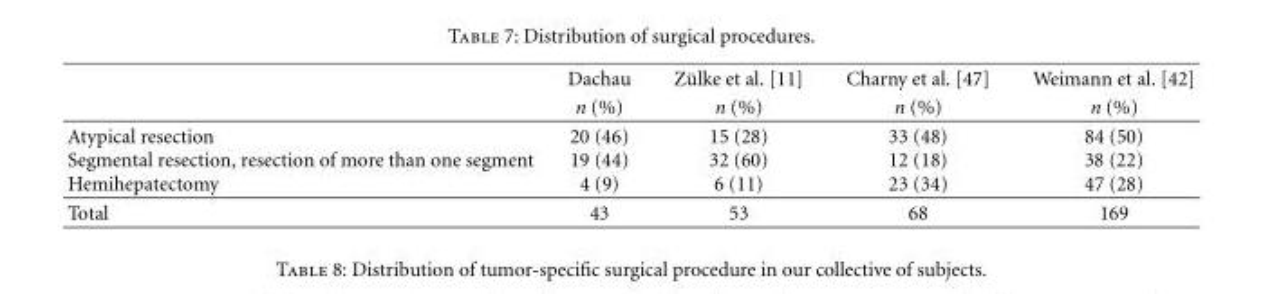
<table><thead><tr><td rowspan="2"></td><td rowspan="2">Dachau n (%)</td><td rowspan="2">Z¨ulke et al. [11] n (%)</td><td rowspan="2">Charny et al. [47] n (%)</td><td rowspan="2">Weimann et al. [42] n (%)</td></tr><tr></tr></thead><tbody><tr><td>Atypical resection</td><td>20 (46)</td><td>15 (28)</td><td>33 (48)</td><td>84 (50)</td></tr><tr><td>Segmental resection, resection of more than one segment</td><td>19 (44)</td><td>32 (60)</td><td>12 (18)</td><td>38 (22)</td></tr><tr><td>Hemihepatectomy</td><td>4 (9)</td><td>6 (11)</td><td>23 (34)</td><td>47 (28)</td></tr><tr><td>Total</td><td>43</td><td>53</td><td>68</td><td>169</td></tr></tbody></table>